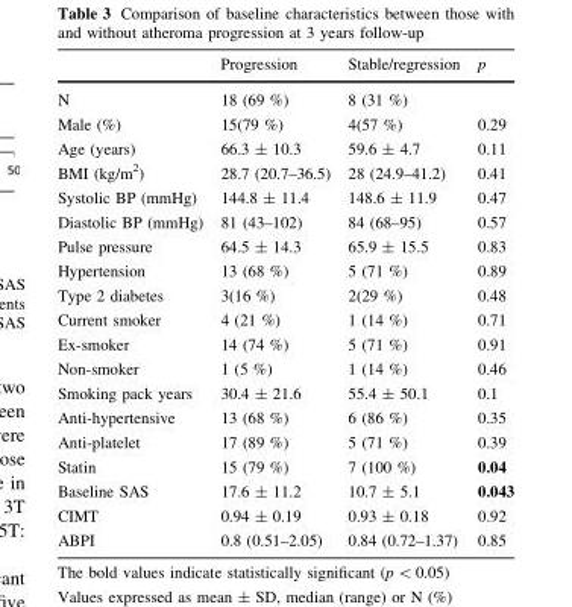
<table><thead><tr><td></td><td>Progression</td><td>Stable/regression</td><td>p</td></tr></thead><tbody><tr><td>N</td><td>18 (69 %)</td><td>8 (31 %)</td><td></td></tr><tr><td>Male (%)</td><td>15(79 %)</td><td>4(57 %)</td><td>0.29</td></tr><tr><td>Age (years)</td><td>66.3 ± 10.3</td><td>59.6 ± 4.7</td><td>0.11</td></tr><tr><td>BMI (kg/m<sup>2</sup>)</td><td>28.7 (20.7–36.5)</td><td>28 (24.9–41.2)</td><td>0.41</td></tr><tr><td>Systolic BP (mmHg)</td><td>144.8 ± 11.4</td><td>148.6 ± 11.9</td><td>0.47</td></tr><tr><td>Diastolic BP (mmHg)</td><td>81 (43–102)</td><td>84 (68–95)</td><td>0.57</td></tr><tr><td>Pulse pressure</td><td>64.5 ± 14.3</td><td>65.9 ± 15.5</td><td>0.83</td></tr><tr><td>Hypertension</td><td>13 (68 %)</td><td>5 (71 %)</td><td>0.89</td></tr><tr><td>Type 2 diabetes</td><td>3(16 %)</td><td>2(29 %)</td><td>0.48</td></tr><tr><td>Current smoker</td><td>4 (21 %)</td><td>1 (14 %)</td><td>0.71</td></tr><tr><td>Ex-smoker</td><td>14 (74 %)</td><td>5 (71 %)</td><td>0.91</td></tr><tr><td>Non-smoker</td><td>1 (5 %)</td><td>1 (14 %)</td><td>0.46</td></tr><tr><td>Smoking pack years</td><td>30.4 ± 21.6</td><td>55.4 ± 50.1</td><td>0.1</td></tr><tr><td>Anti-hypertensive</td><td>13 (68 %)</td><td>6 (86 %)</td><td>0.35</td></tr><tr><td>Anti-platelet</td><td>17 (89 %)</td><td>5 (71 %)</td><td>0.39</td></tr><tr><td>Statin</td><td>15 (79 %)</td><td>7 (100 %)</td><td>0.04</td></tr><tr><td>Baseline SAS</td><td>17.6 ± 11.2</td><td>10.7 ± 5.1</td><td>0.043</td></tr><tr><td>CIMT</td><td>0.94 ± 0.19</td><td>0.93 ± 0.18</td><td>0.92</td></tr><tr><td>ABPI</td><td>0.8 (0.51–2.05)</td><td>0.84 (0.72–1.37)</td><td>0.85</td></tr></tbody></table>